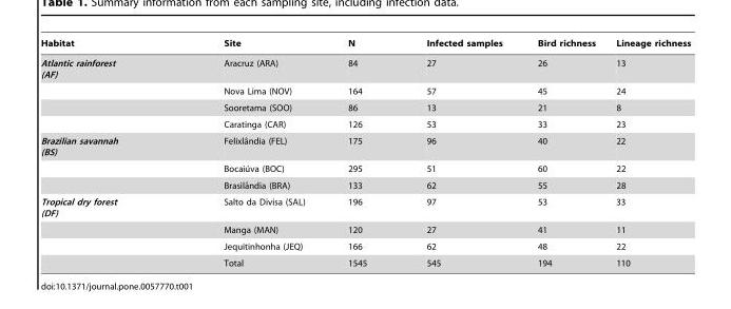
<table><thead><tr><td>Habitat</td><td>Site</td><td>N</td><td>Infected samples</td><td>Bird richness</td><td>Lineage richness</td></tr></thead><tbody><tr><td rowspan="4">Atlantic rainforest (AF)</td><td>Aracruz (ARA)</td><td>84</td><td>27</td><td>26</td><td>13</td></tr><tr><td>Nova Lima (NOV)</td><td>164</td><td>57</td><td>45</td><td>24</td></tr><tr><td>Sooretama (SOO)</td><td>86</td><td>13</td><td>21</td><td>8</td></tr><tr><td>Caratinga (CAR)</td><td>126</td><td>53</td><td>33</td><td>23</td></tr><tr><td rowspan="3">Brazilian savannah (BS)</td><td>Felixlaˆndia (FEL)</td><td>175</td><td>96</td><td>40</td><td>22</td></tr><tr><td>Bocaiu´va (BOC)</td><td>295</td><td>51</td><td>60</td><td>22</td></tr><tr><td>Brasilaˆndia (BRA)</td><td>133</td><td>62</td><td>55</td><td>28</td></tr><tr><td rowspan="4">Tropical dry forest (DF)</td><td>Salto da Divisa (SAL)</td><td>196</td><td>97</td><td>53</td><td>33</td></tr><tr><td>Manga (MAN)</td><td>120</td><td>27</td><td>41</td><td>11</td></tr><tr><td>Jequitinhonha (JEQ)</td><td>166</td><td>62</td><td>48</td><td>22</td></tr><tr><td>Total</td><td>1545</td><td>545</td><td>194</td><td>110</td></tr></tbody></table>